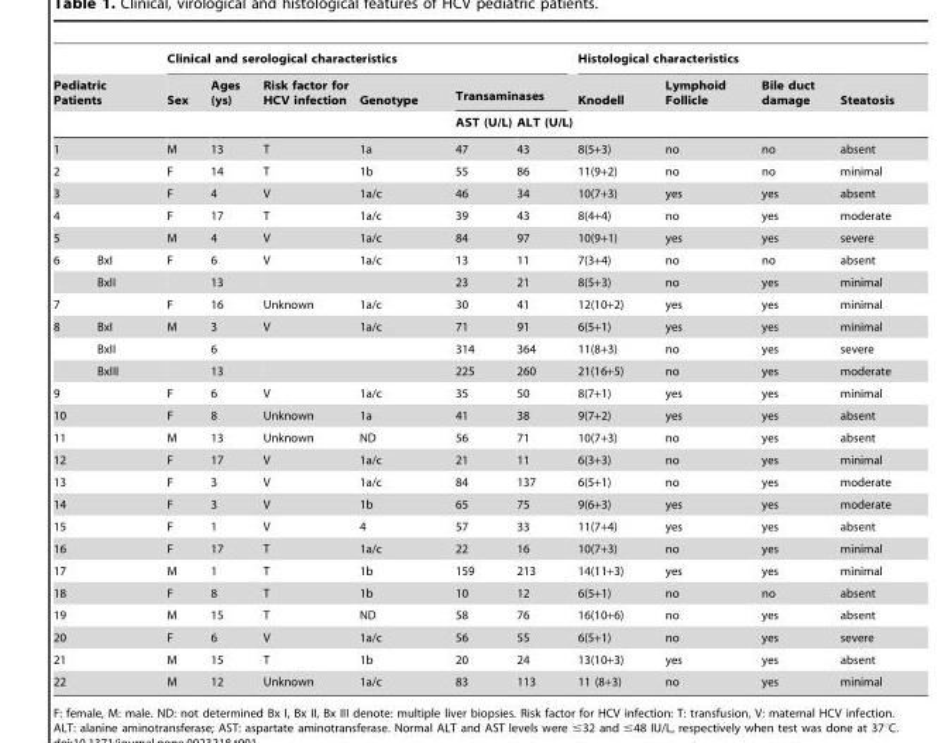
<table><thead><tr><td></td><td></td><td colspan="6">Clinical and serological characteristics</td><td colspan="4">Histological characteristics</td></tr><tr><td colspan="2">Pediatric Patients</td><td rowspan="2">Sex</td><td rowspan="2">Ages (ys)</td><td rowspan="2">Risk factor for HCV infection</td><td rowspan="2">Genotype</td><td colspan="2">Transaminases</td><td rowspan="2">Knodell</td><td rowspan="2">Lymphoid Follicle</td><td rowspan="2">Bile duct damage</td><td rowspan="2">Steatosis</td></tr><tr><td></td><td></td><td>AST (U/L)</td><td>ALT (U/L)</td></tr></thead><tbody><tr><td colspan="2">1</td><td>M</td><td>13</td><td>T</td><td>1a</td><td>47</td><td>43</td><td>8(5+3)</td><td>no</td><td>no</td><td>absent</td></tr><tr><td colspan="2">2</td><td>F</td><td>14</td><td>T</td><td>1b</td><td>55</td><td>86</td><td>11(9+2)</td><td>no</td><td>no</td><td>minimal</td></tr><tr><td colspan="2">3</td><td>F</td><td>4</td><td>V</td><td>1a/c</td><td>46</td><td>34</td><td>10(7+3)</td><td>yes</td><td>yes</td><td>absent</td></tr><tr><td colspan="2">4</td><td>F</td><td>17</td><td>T</td><td>1a/c</td><td>39</td><td>43</td><td>8(4+4)</td><td>no</td><td>yes</td><td>moderate</td></tr><tr><td colspan="2">5</td><td>M</td><td>4</td><td>V</td><td>1a/c</td><td>84</td><td>97</td><td>10(9+1)</td><td>yes</td><td>yes</td><td>severe</td></tr><tr><td rowspan="2">6</td><td>BxI</td><td>F</td><td>6</td><td>V</td><td>1a/c</td><td>13</td><td>11</td><td>7(3+4)</td><td>no</td><td>no</td><td>absent</td></tr><tr><td>BxII</td><td></td><td>13</td><td></td><td></td><td>23</td><td>21</td><td>8(5+3)</td><td>no</td><td>yes</td><td>minimal</td></tr><tr><td colspan="2">7</td><td>F</td><td>16</td><td>Unknown</td><td>1a/c</td><td>30</td><td>41</td><td>12(10+2)</td><td>yes</td><td>yes</td><td>minimal</td></tr><tr><td rowspan="3">8</td><td>BxI</td><td>M</td><td>3</td><td>V</td><td>1a/c</td><td>71</td><td>91</td><td>6(5+1)</td><td>yes</td><td>yes</td><td>minimal</td></tr><tr><td>BxII</td><td></td><td>6</td><td></td><td></td><td>314</td><td>364</td><td>11(8+3)</td><td>no</td><td>yes</td><td>severe</td></tr><tr><td>BxIII</td><td></td><td>13</td><td></td><td></td><td>225</td><td>260</td><td>21(16+5)</td><td>no</td><td>yes</td><td>moderate</td></tr><tr><td colspan="2">9</td><td>F</td><td>6</td><td>V</td><td>1a/c</td><td>35</td><td>50</td><td>8(7+1)</td><td>yes</td><td>yes</td><td>minimal</td></tr><tr><td colspan="2">10</td><td>F</td><td>8</td><td>Unknown</td><td>1a</td><td>41</td><td>38</td><td>9(7+2)</td><td>yes</td><td>yes</td><td>absent</td></tr><tr><td colspan="2">11</td><td>M</td><td>13</td><td>Unknown</td><td>ND</td><td>56</td><td>71</td><td>10(7+3)</td><td>no</td><td>yes</td><td>absent</td></tr><tr><td colspan="2">12</td><td>F</td><td>17</td><td>V</td><td>1a/c</td><td>21</td><td>11</td><td>6(3+3)</td><td>no</td><td>yes</td><td>minimal</td></tr><tr><td colspan="2">13</td><td>F</td><td>3</td><td>V</td><td>1a/c</td><td>84</td><td>137</td><td>6(5+1)</td><td>no</td><td>yes</td><td>moderate</td></tr><tr><td colspan="2">14</td><td>F</td><td>3</td><td>V</td><td>1b</td><td>65</td><td>75</td><td>9(6+3)</td><td>yes</td><td>yes</td><td>moderate</td></tr><tr><td colspan="2">15</td><td>F</td><td>1</td><td>V</td><td>4</td><td>57</td><td>33</td><td>11(7+4)</td><td>yes</td><td>yes</td><td>absent</td></tr><tr><td colspan="2">16</td><td>F</td><td>17</td><td>T</td><td>1a/c</td><td>22</td><td>16</td><td>10(7+3)</td><td>no</td><td>yes</td><td>minimal</td></tr><tr><td colspan="2">17</td><td>M</td><td>1</td><td>T</td><td>1b</td><td>159</td><td>213</td><td>14(11+3)</td><td>yes</td><td>yes</td><td>minimal</td></tr><tr><td colspan="2">18</td><td>F</td><td>8</td><td>T</td><td>1b</td><td>10</td><td>12</td><td>6(5+1)</td><td>no</td><td>no</td><td>absent</td></tr><tr><td colspan="2">19</td><td>M</td><td>15</td><td>T</td><td>ND</td><td>58</td><td>76</td><td>16(10+6)</td><td>no</td><td>yes</td><td>absent</td></tr><tr><td colspan="2">20</td><td>F</td><td>6</td><td>V</td><td>1a/c</td><td>56</td><td>55</td><td>6(5+1)</td><td>no</td><td>yes</td><td>severe</td></tr><tr><td colspan="2">21</td><td>M</td><td>15</td><td>T</td><td>1b</td><td>20</td><td>24</td><td>13(10+3)</td><td>yes</td><td>yes</td><td>absent</td></tr><tr><td colspan="2">22</td><td>M</td><td>12</td><td>Unknown</td><td>1a/c</td><td>83</td><td>113</td><td>11 (8+3)</td><td>no</td><td>yes</td><td>minimal</td></tr></tbody></table>